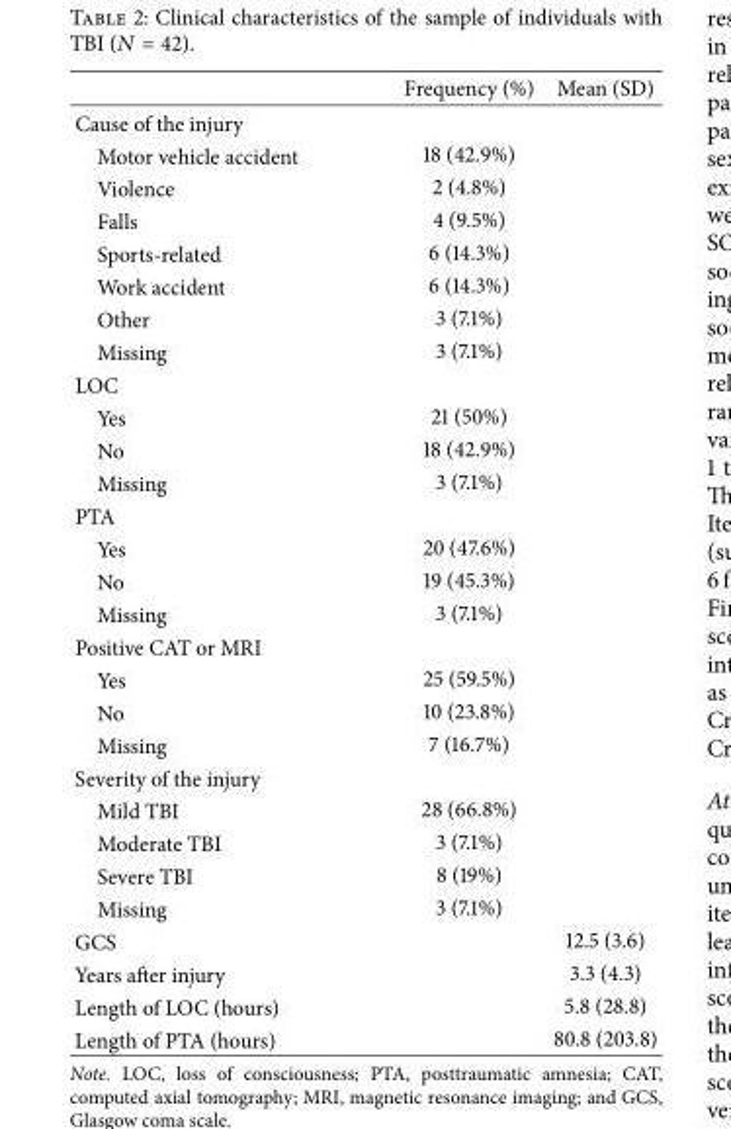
<table><thead><tr><td></td><td>Frequency (%)</td><td>Mean (SD)</td></tr></thead><tbody><tr><td colspan="3">Cause of the injury</td></tr><tr><td>Motor vehicle accident</td><td>18 (42.9%)</td><td></td></tr><tr><td>Violence</td><td>2 (4.8%)</td><td></td></tr><tr><td>Falls</td><td>4 (9.5%)</td><td></td></tr><tr><td>Sports-related</td><td>6 (14.3%)</td><td></td></tr><tr><td>Work accident</td><td>6 (14.3%)</td><td></td></tr><tr><td>Other</td><td>3 (7.1%)</td><td></td></tr><tr><td>Missing</td><td>3 (7.1%)</td><td></td></tr><tr><td colspan="3">LOC</td></tr><tr><td>Yes</td><td>21 (50%)</td><td></td></tr><tr><td>No</td><td>18 (42.9%)</td><td></td></tr><tr><td>Missing</td><td>3 (7.1%)</td><td></td></tr><tr><td colspan="3">PTA</td></tr><tr><td>Yes</td><td>20 (47.6%)</td><td></td></tr><tr><td>No</td><td>19 (45.3%)</td><td></td></tr><tr><td>Missing</td><td>3 (7.1%)</td><td></td></tr><tr><td colspan="3">Positive CAT or MRI</td></tr><tr><td>Yes</td><td>25 (59.5%)</td><td></td></tr><tr><td>No</td><td>10 (23.8%)</td><td></td></tr><tr><td>Missing</td><td>7 (16.7%)</td><td></td></tr><tr><td colspan="3">Severity of the injury</td></tr><tr><td>Mild TBI</td><td>28 (66.8%)</td><td></td></tr><tr><td>Moderate TBI</td><td>3 (7.1%)</td><td></td></tr><tr><td>Severe TBI</td><td>8 (19%)</td><td></td></tr><tr><td>Missing</td><td>3 (7.1%)</td><td></td></tr><tr><td>GCS</td><td></td><td>12.5 (3.6)</td></tr><tr><td>Years after injury</td><td></td><td>3.3 (4.3)</td></tr><tr><td>Length of LOC (hours)</td><td></td><td>5.8 (28.8)</td></tr><tr><td>Length of PTA (hours)</td><td></td><td>80.8 (203.8)</td></tr></tbody></table>